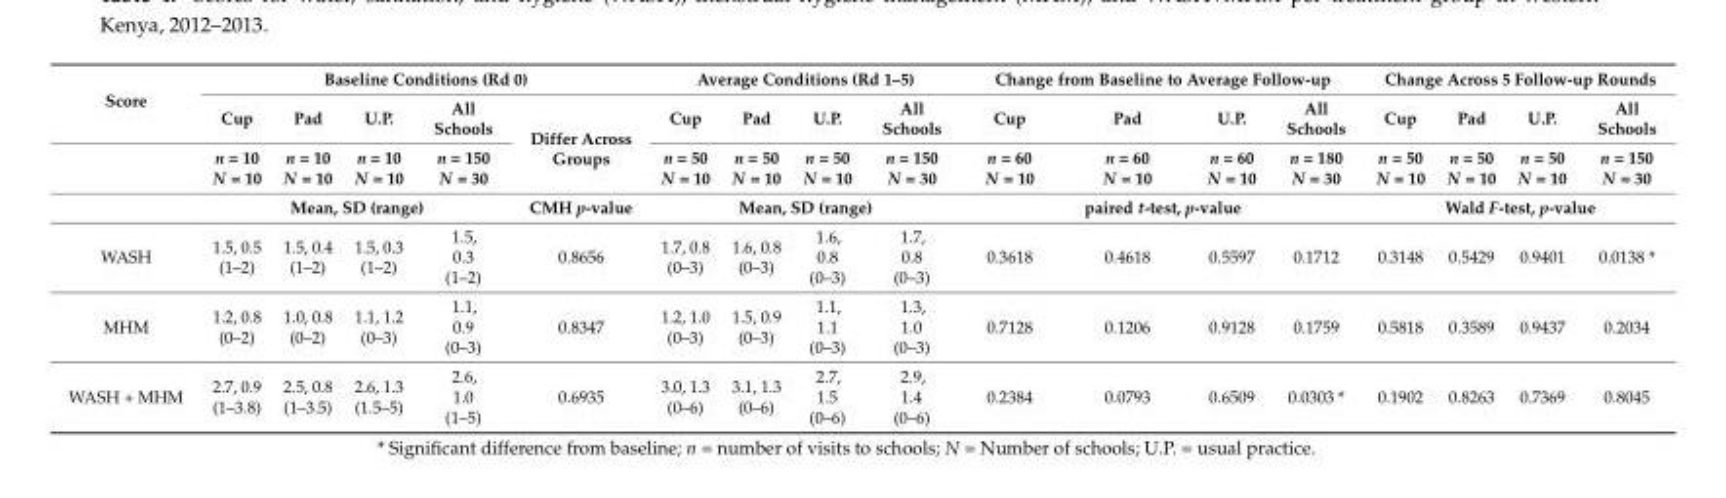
<table><thead><tr><td rowspan="3">Score</td><td colspan="5">Baseline Conditions (Rd 0)</td><td colspan="4">Average Conditions (Rd 1–5)</td><td colspan="4">Change from Baseline to Average Follow-up</td><td colspan="4">Change Across 5 Follow-up Rounds</td></tr><tr><td rowspan="2">Cup n = 10 N = 10</td><td rowspan="2">Pad n = 10 N = 10</td><td rowspan="2">U.P. n = 10 N = 10</td><td rowspan="2">All Schools n = 150 N = 30</td><td rowspan="2">Differ Across Groups</td><td rowspan="2">Cup n = 50 N = 10</td><td rowspan="2">Pad n = 50 N = 10</td><td rowspan="2">U.P. n = 50 N = 10</td><td rowspan="2">All Schools n = 150 N = 30</td><td rowspan="2">Cup n = 60 N = 10</td><td rowspan="2">Pad n = 60 N = 10</td><td rowspan="2">U.P. n = 60 N = 10</td><td rowspan="2">All Schools n = 180 N = 30</td><td rowspan="2">Cup n = 50 N = 10</td><td rowspan="2">Pad n = 50 N = 10</td><td rowspan="2">U.P. n = 50 N = 10</td><td rowspan="2">All Schools n = 150 N = 30</td></tr><tr></tr></thead><tbody><tr><td></td><td colspan="4">Mean, SD (range)</td><td>CMH p-value</td><td colspan="4">Mean, SD (range)</td><td colspan="4">paired t-test, p-value</td><td colspan="4">Wald F-test, p-value</td></tr><tr><td>WASH</td><td>1.5, 0.5 (1–2)</td><td>1.5, 0.4 (1–2)</td><td>1.5, 0.3 (1–2)</td><td>1.5, 0.3 (1–2)</td><td>0.8656</td><td>1.7, 0.8 (0–3)</td><td>1.6, 0.8 (0–3)</td><td>1.6, 0.8 (0–3)</td><td>1.7, 0.8 (0–3)</td><td>0.3618</td><td>0.4618</td><td>0.5597</td><td>0.1712</td><td>0.3148</td><td>0.5429</td><td>0.9401</td><td>0.0138 *</td></tr><tr><td>MHM</td><td>1.2, 0.8 (0–2)</td><td>1.0, 0.8 (0–2)</td><td>1.1, 1.2 (0–3)</td><td>1.1, 0.9 (0–3)</td><td>0.8347</td><td>1.2, 1.0 (0–3)</td><td>1.5, 0.9 (0–3)</td><td>1.1, 1.1 (0–3)</td><td>1.3, 1.0 (0–3)</td><td>0.7128</td><td>0.1206</td><td>0.9128</td><td>0.1759</td><td>0.5818</td><td>0.3589</td><td>0.9437</td><td>0.2034</td></tr><tr><td>WASH + MHM</td><td>2.7, 0.9 (1–3.8)</td><td>2.5, 0.8 (1–3.5)</td><td>2.6, 1.3 (1.5–5)</td><td>2.6, 1.0 (1–5)</td><td>0.6935</td><td>3.0, 1.3 (0–6)</td><td>3.1, 1.3 (0–6)</td><td>2.7, 1.5 (0–6)</td><td>2.9, 1.4 (0–6)</td><td>0.2384</td><td>0.0793</td><td>0.6509</td><td>0.0303 *</td><td>0.1902</td><td>0.8263</td><td>0.7369</td><td>0.8045</td></tr></tbody></table>